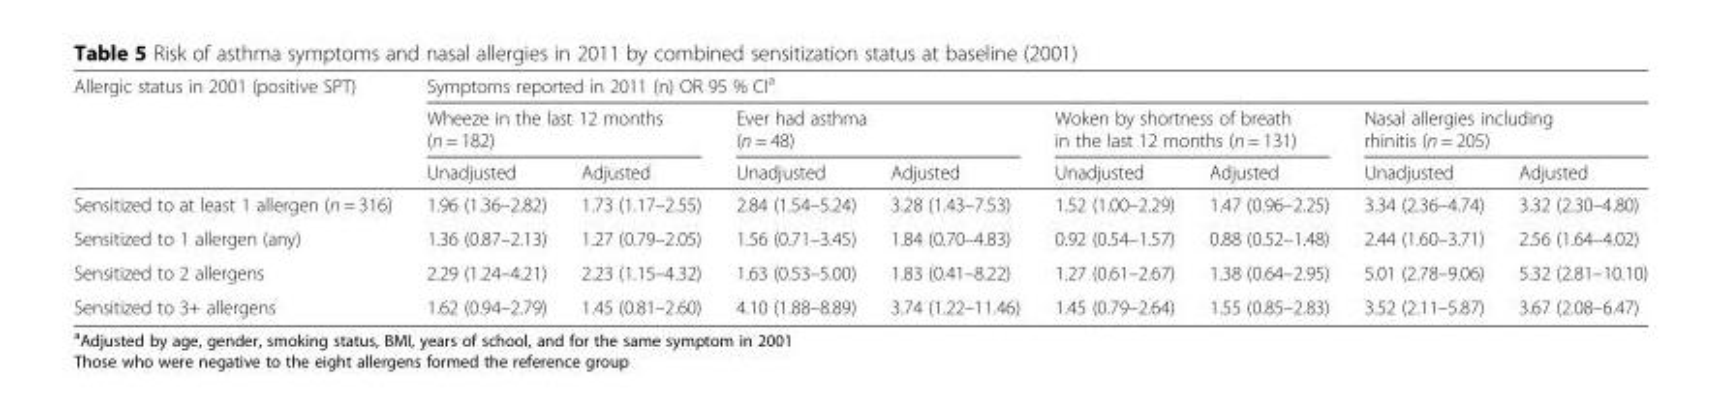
<table><thead><tr><td rowspan="3">Allergic status in 2001 (positive SPT)</td><td colspan="8">Symptoms reported in 2011 (n) OR 95 % CI<sup>a</sup></td></tr><tr><td colspan="2">Wheeze in the last 12 months (n = 182)</td><td colspan="2">Ever had asthma (n = 48)</td><td colspan="2">Woken by shortness of breath in the last 12 months (n = 131)</td><td colspan="2">Nasal allergies including rhinitis (n = 205)</td></tr><tr><td>Unadjusted</td><td>Adjusted</td><td>Unadjusted</td><td>Adjusted</td><td>Unadjusted</td><td>Adjusted</td><td>Unadjusted</td><td>Adjusted</td></tr></thead><tbody><tr><td>Sensitized to at least 1 allergen (n = 316)</td><td>1.96 (1.36–2.82)</td><td>1.73 (1.17–2.55)</td><td>2.84 (1.54–5.24)</td><td>3.28 (1.43–7.53)</td><td>1.52 (1.00–2.29)</td><td>1.47 (0.96–2.25)</td><td>3.34 (2.36–4.74)</td><td>3.32 (2.30–4.80)</td></tr><tr><td>Sensitized to 1 allergen (any)</td><td>1.36 (0.87–2.13)</td><td>1.27 (0.79–2.05)</td><td>1.56 (0.71–3.45)</td><td>1.84 (0.70–4.83)</td><td>0.92 (0.54–1.57)</td><td>0.88 (0.52–1.48)</td><td>2.44 (1.60–3.71)</td><td>2.56 (1.64–4.02)</td></tr><tr><td>Sensitized to 2 allergens</td><td>2.29 (1.24–4.21)</td><td>2.23 (1.15–4.32)</td><td>1.63 (0.53–5.00)</td><td>1.83 (0.41–8.22)</td><td>1.27 (0.61–2.67)</td><td>1.38 (0.64–2.95)</td><td>5.01 (2.78–9.06)</td><td>5.32 (2.81–10.10)</td></tr><tr><td>Sensitized to 3+ allergens</td><td>1.62 (0.94–2.79)</td><td>1.45 (0.81–2.60)</td><td>4.10 (1.88–8.89)</td><td>3.74 (1.22–11.46)</td><td>1.45 (0.79–2.64)</td><td>1.55 (0.85–2.83)</td><td>3.52 (2.11–5.87)</td><td>3.67 (2.08–6.47)</td></tr></tbody></table>